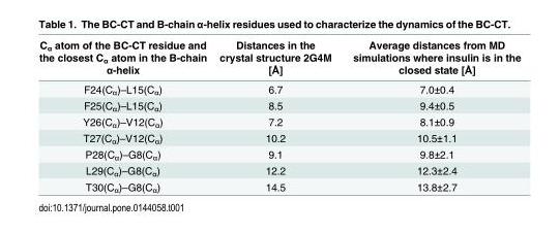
<table><thead><tr><td>C<sub>α</sub> atom of the BC-CT residue and the closest C<sub>α</sub> atom in the B-chain α-helix</td><td>Distances in the crystal structure 2G4M [Å]</td><td>Average distances from MD simulations where insulin is in the closed state [Å]</td></tr></thead><tbody><tr><td>F24(C<sub>α</sub>)–L15(C<sub>α</sub>)</td><td>6.7</td><td>7.0±0.4</td></tr><tr><td>F25(C<sub>α</sub>)–L15(C<sub>α</sub>)</td><td>8.5</td><td>9.4±0.5</td></tr><tr><td>Y26(C<sub>α</sub>)–V12(C<sub>α</sub>)</td><td>7.2</td><td>8.1±0.9</td></tr><tr><td>T27(C<sub>α</sub>)–V12(C<sub>α</sub>)</td><td>10.2</td><td>10.5±1.1</td></tr><tr><td>P28(C<sub>α</sub>)–G8(C<sub>α</sub>)</td><td>9.1</td><td>9.8±2.1</td></tr><tr><td>L29(C<sub>α</sub>)–G8(C<sub>α</sub>)</td><td>12.2</td><td>12.3±2.4</td></tr><tr><td>T30(C<sub>α</sub>)–G8(C<sub>α</sub>)</td><td>14.5</td><td>13.8±2.7</td></tr></tbody></table>